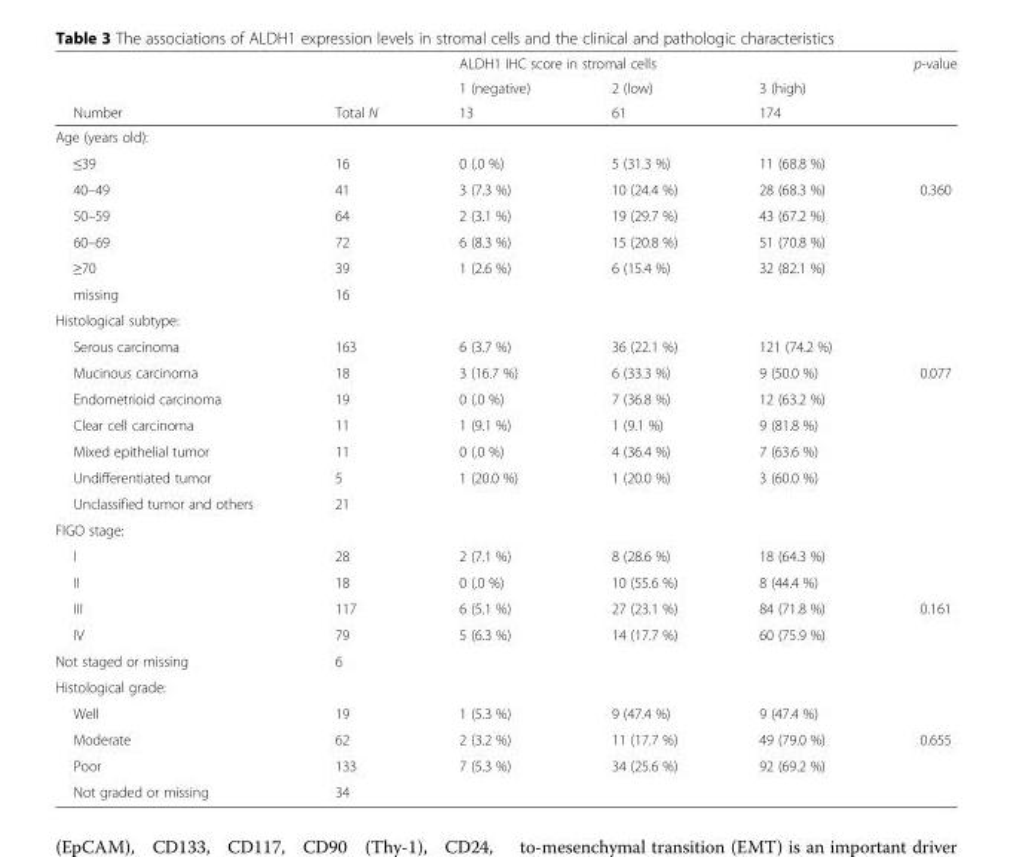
<table><thead><tr><td rowspan="3">Number</td><td rowspan="3">Total N</td><td colspan="3">ALDH1 IHC score in stromal cells</td><td rowspan="3">p-value</td></tr><tr><td rowspan="2">1 (negative) 13</td><td rowspan="2">2 (low) 61</td><td rowspan="2">3 (high) 174</td></tr><tr></tr></thead><tbody><tr><td colspan="6">Age (years old):</td></tr><tr><td>≤39</td><td>16</td><td>0 (.0 %)</td><td>5 (31.3 %)</td><td>11 (68.8 %)</td><td></td></tr><tr><td>40–49</td><td>41</td><td>3 (7.3 %)</td><td>10 (24.4 %)</td><td>28 (68.3 %)</td><td>0.360</td></tr><tr><td>50–59</td><td>64</td><td>2 (3.1 %)</td><td>19 (29.7 %)</td><td>43 (67.2 %)</td><td></td></tr><tr><td>60–69</td><td>72</td><td>6 (8.3 %)</td><td>15 (20.8 %)</td><td>51 (70.8 %)</td><td></td></tr><tr><td>≥70</td><td>39</td><td>1 (2.6 %)</td><td>6 (15.4 %)</td><td>32 (82.1 %)</td><td></td></tr><tr><td>missing</td><td>16</td><td></td><td></td><td></td><td></td></tr><tr><td colspan="6">Histological subtype:</td></tr><tr><td>Serous carcinoma</td><td>163</td><td>6 (3.7 %)</td><td>36 (22.1 %)</td><td>121 (74.2 %)</td><td></td></tr><tr><td>Mucinous carcinoma</td><td>18</td><td>3 (16.7 %)</td><td>6 (33.3 %)</td><td>9 (50.0 %)</td><td>0.077</td></tr><tr><td>Endometrioid carcinoma</td><td>19</td><td>0 (.0 %)</td><td>7 (36.8 %)</td><td>12 (63.2 %)</td><td></td></tr><tr><td>Clear cell carcinoma</td><td>11</td><td>1 (9.1 %)</td><td>1 (9.1 %)</td><td>9 (81.8 %)</td><td></td></tr><tr><td>Mixed epithelial tumor</td><td>11</td><td>0 (.0 %)</td><td>4 (36.4 %)</td><td>7 (63.6 %)</td><td></td></tr><tr><td>Undifferentiated tumor</td><td>5</td><td>1 (20.0 %)</td><td>1 (20.0 %)</td><td>3 (60.0 %)</td><td></td></tr><tr><td>Unclassified tumor and others</td><td>21</td><td></td><td></td><td></td><td></td></tr><tr><td colspan="6">FIGO stage:</td></tr><tr><td>I</td><td>28</td><td>2 (7.1 %)</td><td>8 (28.6 %)</td><td>18 (64.3 %)</td><td></td></tr><tr><td>II</td><td>18</td><td>0 (.0 %)</td><td>10 (55.6 %)</td><td>8 (44.4 %)</td><td></td></tr><tr><td>III</td><td>117</td><td>6 (5.1 %)</td><td>27 (23.1 %)</td><td>84 (71.8 %)</td><td>0.161</td></tr><tr><td>IV</td><td>79</td><td>5 (6.3 %)</td><td>14 (17.7 %)</td><td>60 (75.9 %)</td><td></td></tr><tr><td>Not staged or missing</td><td>6</td><td></td><td></td><td></td><td></td></tr><tr><td colspan="6">Histological grade:</td></tr><tr><td>Well</td><td>19</td><td>1 (5.3 %)</td><td>9 (47.4 %)</td><td>9 (47.4 %)</td><td></td></tr><tr><td>Moderate</td><td>62</td><td>2 (3.2 %)</td><td>11 (17.7 %)</td><td>49 (79.0 %)</td><td>0.655</td></tr><tr><td>Poor</td><td>133</td><td>7 (5.3 %)</td><td>34 (25.6 %)</td><td>92 (69.2 %)</td><td></td></tr><tr><td>Not graded or missing</td><td>34</td><td></td><td></td><td></td><td></td></tr></tbody></table>